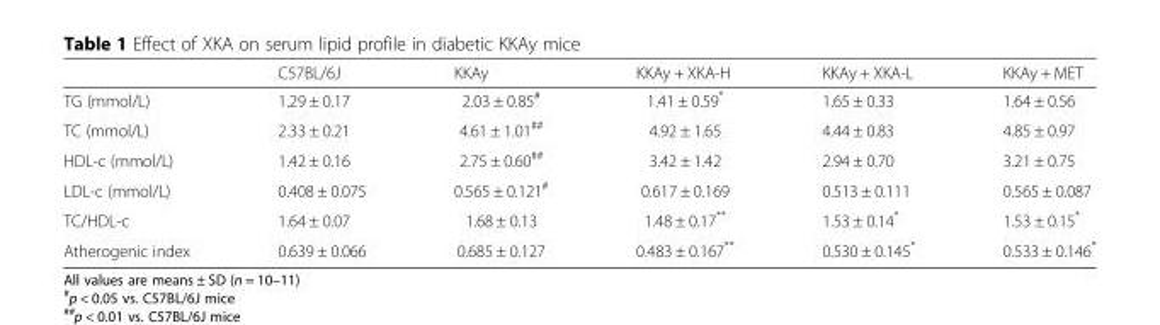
<table><thead><tr><td></td><td>C57BL/6J</td><td>KKAy</td><td>KKAy + XKA-H</td><td>KKAy + XKA-L</td><td>KKAy + MET</td></tr></thead><tbody><tr><td>TG (mmol/L)</td><td>1.29 ± 0.17</td><td>2.03 ± 0.85<sup>#</sup></td><td>1.41 ± 0.59*</td><td>1.65 ± 0.33</td><td>1.64 ± 0.56</td></tr><tr><td>TC (mmol/L)</td><td>2.33 ± 0.21</td><td>4.61 ± 1.01<sup>##</sup></td><td>4.92 ± 1.65</td><td>4.44 ± 0.83</td><td>4.85 ± 0.97</td></tr><tr><td>HDL-c (mmol/L)</td><td>1.42 ± 0.16</td><td>2.75 ± 0.60<sup>##</sup></td><td>3.42 ± 1.42</td><td>2.94 ± 0.70</td><td>3.21 ± 0.75</td></tr><tr><td>LDL-c (mmol/L)</td><td>0.408 ± 0.075</td><td>0.565 ± 0.121<sup>#</sup></td><td>0.617 ± 0.169</td><td>0.513 ± 0.111</td><td>0.565 ± 0.087</td></tr><tr><td>TC/HDL-c</td><td>1.64 ± 0.07</td><td>1.68 ± 0.13</td><td>1.48 ± 0.17**</td><td>1.53 ± 0.14*</td><td>1.53 ± 0.15*</td></tr><tr><td>Atherogenic index</td><td>0.639 ± 0.066</td><td>0.685 ± 0.127</td><td>0.483 ± 0.167**</td><td>0.530 ± 0.145*</td><td>0.533 ± 0.146*</td></tr></tbody></table>